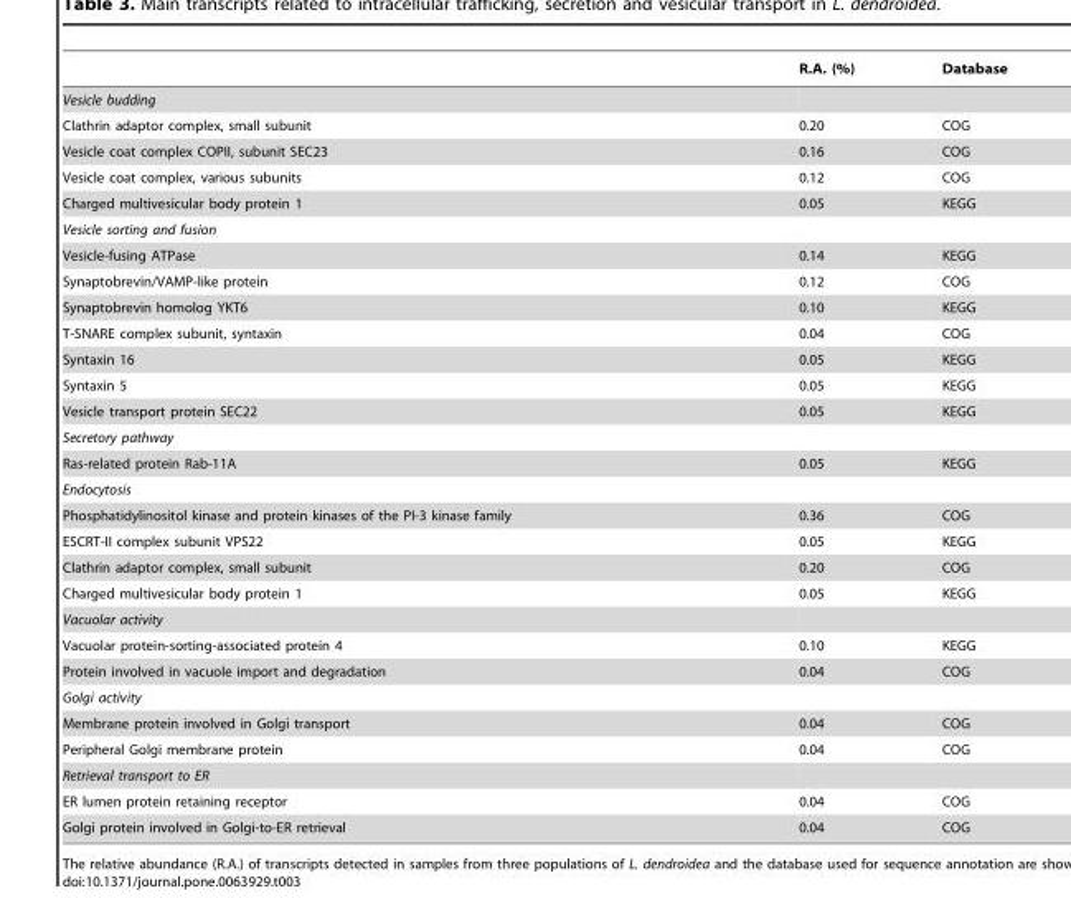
<table><thead><tr><td></td><td>R.A. (%)</td><td>Database</td></tr></thead><tbody><tr><td colspan="3">Vesicle budding</td></tr><tr><td>Clathrin adaptor complex, small subunit</td><td>0.20</td><td>COG</td></tr><tr><td>Vesicle coat complex COPII, subunit SEC23</td><td>0.16</td><td>COG</td></tr><tr><td>Vesicle coat complex, various subunits</td><td>0.12</td><td>COG</td></tr><tr><td>Charged multivesicular body protein 1</td><td>0.05</td><td>KEGG</td></tr><tr><td colspan="3">Vesicle sorting and fusion</td></tr><tr><td>Vesicle-fusing ATPase</td><td>0.14</td><td>KEGG</td></tr><tr><td>Synaptobrevin/VAMP-like protein</td><td>0.12</td><td>COG</td></tr><tr><td>Synaptobrevin homolog YKT6</td><td>0.10</td><td>KEGG</td></tr><tr><td>T-SNARE complex subunit, syntaxin</td><td>0.04</td><td>COG</td></tr><tr><td>Syntaxin 16</td><td>0.05</td><td>KEGG</td></tr><tr><td>Syntaxin 5</td><td>0.05</td><td>KEGG</td></tr><tr><td>Vesicle transport protein SEC22</td><td>0.05</td><td>KEGG</td></tr><tr><td colspan="3">Secretory pathway</td></tr><tr><td>Ras-related protein Rab-11A</td><td>0.05</td><td>KEGG</td></tr><tr><td colspan="3">Endocytosis</td></tr><tr><td>Phosphatidylinositol kinase and protein kinases of the PI-3 kinase family</td><td>0.36</td><td>COG</td></tr><tr><td>ESCRT-II complex subunit VPS22</td><td>0.05</td><td>KEGG</td></tr><tr><td>Clathrin adaptor complex, small subunit</td><td>0.20</td><td>COG</td></tr><tr><td>Charged multivesicular body protein 1</td><td>0.05</td><td>KEGG</td></tr><tr><td colspan="3">Vacuolar activity</td></tr><tr><td>Vacuolar protein-sorting-associated protein 4</td><td>0.10</td><td>KEGG</td></tr><tr><td>Protein involved in vacuole import and degradation</td><td>0.04</td><td>COG</td></tr><tr><td colspan="3">Golgi activity</td></tr><tr><td>Membrane protein involved in Golgi transport</td><td>0.04</td><td>COG</td></tr><tr><td>Peripheral Golgi membrane protein</td><td>0.04</td><td>COG</td></tr><tr><td colspan="3">Retrieval transport to ER</td></tr><tr><td>ER lumen protein retaining receptor</td><td>0.04</td><td>COG</td></tr><tr><td>Golgi protein involved in Golgi-to-ER retrieval</td><td>0.04</td><td>COG</td></tr></tbody></table>